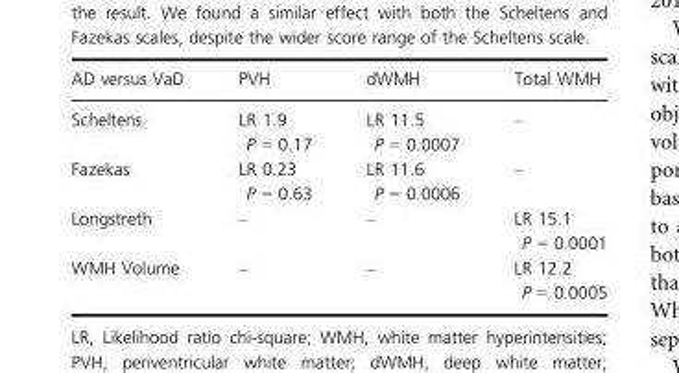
<table><thead><tr><td>AD versus VaD</td><td>PVH</td><td>dWMH</td><td>Total WMH</td></tr></thead><tbody><tr><td>Scheltens</td><td>LR 1.9 P = 0.17</td><td>LR 11.5 P = 0.0007</td><td>–</td></tr><tr><td>Fazekas</td><td>LR 0.23 P = 0.63</td><td>LR 11.6 P = 0.0006</td><td>–</td></tr><tr><td>Longstreth</td><td>–</td><td>–</td><td>LR 15.1 P = 0.0001</td></tr><tr><td>WMH Volume</td><td>–</td><td>–</td><td>LR 12.2 P = 0.0005</td></tr></tbody></table>